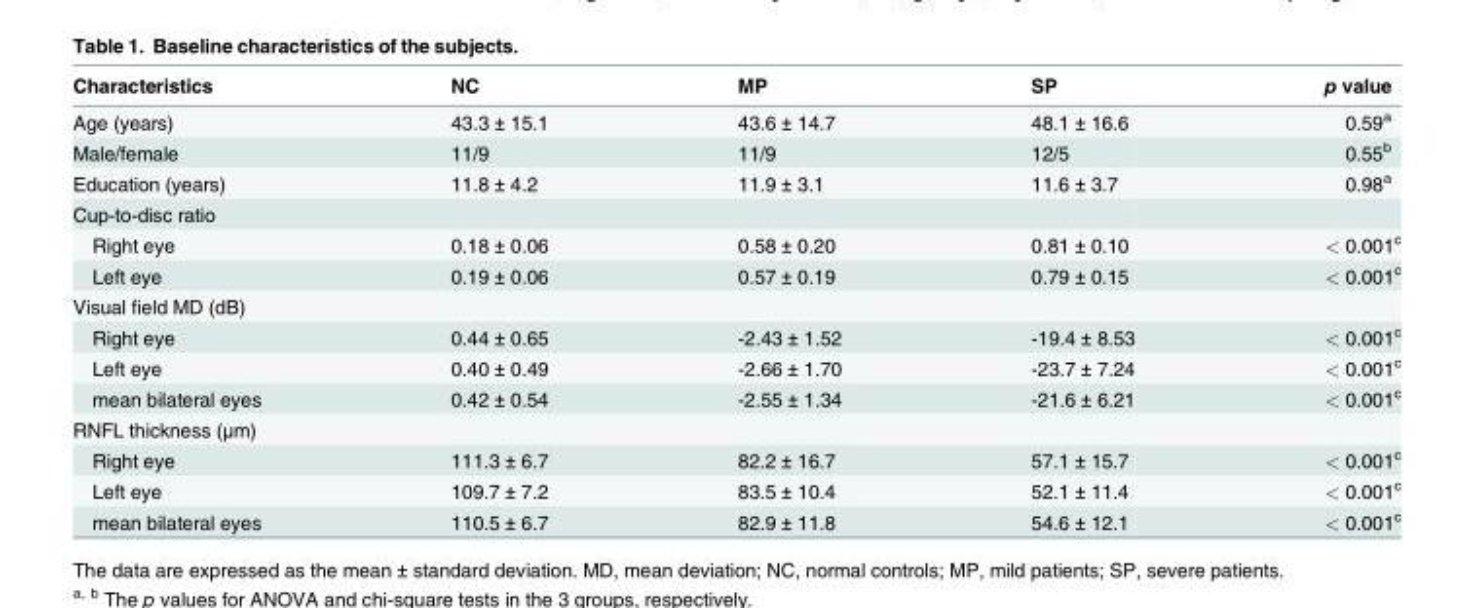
<table><thead><tr><td>Characteristics</td><td>NC</td><td>MP</td><td>SP</td><td>p value</td></tr></thead><tbody><tr><td>Age (years)</td><td>43.3 ± 15.1</td><td>43.6 ± 14.7</td><td>48.1 ± 16.6</td><td>0.59<sup>a</sup></td></tr><tr><td>Male/female</td><td>11/9</td><td>11/9</td><td>12/5</td><td>0.55<sup>b</sup></td></tr><tr><td>Education (years)</td><td>11.8 ± 4.2</td><td>11.9 ± 3.1</td><td>11.6 ± 3.7</td><td>0.98<sup>a</sup></td></tr><tr><td colspan="5">Cup-to-disc ratio</td></tr><tr><td>Right eye</td><td>0.18 ± 0.06</td><td>0.58 ± 0.20</td><td>0.81 ± 0.10</td><td>&lt; 0.001<sup>c</sup></td></tr><tr><td>Left eye</td><td>0.19 ± 0.06</td><td>0.57 ± 0.19</td><td>0.79 ± 0.15</td><td>&lt; 0.001<sup>c</sup></td></tr><tr><td colspan="5">Visual field MD (dB)</td></tr><tr><td>Right eye</td><td>0.44 ± 0.65</td><td>-2.43 ± 1.52</td><td>-19.4 ± 8.53</td><td>&lt; 0.001<sup>c</sup></td></tr><tr><td>Left eye</td><td>0.40 ± 0.49</td><td>-2.66 ± 1.70</td><td>-23.7 ± 7.24</td><td>&lt; 0.001<sup>c</sup></td></tr><tr><td>mean bilateral eyes</td><td>0.42 ± 0.54</td><td>-2.55 ± 1.34</td><td>-21.6 ± 6.21</td><td>&lt; 0.001<sup>c</sup></td></tr><tr><td colspan="5">RNFL thickness (μm)</td></tr><tr><td>Right eye</td><td>111.3 ± 6.7</td><td>82.2 ± 16.7</td><td>57.1 ± 15.7</td><td>&lt; 0.001<sup>c</sup></td></tr><tr><td>Left eye</td><td>109.7 ± 7.2</td><td>83.5 ± 10.4</td><td>52.1 ± 11.4</td><td>&lt; 0.001<sup>c</sup></td></tr><tr><td>mean bilateral eyes</td><td>110.5 ± 6.7</td><td>82.9 ± 11.8</td><td>54.6 ± 12.1</td><td>&lt; 0.001<sup>c</sup></td></tr></tbody></table>